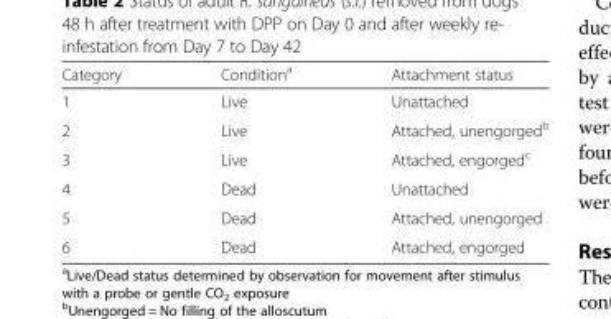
<table><thead><tr><td>Category</td><td>Condition<sup>a</sup></td><td>Attachment status</td></tr></thead><tbody><tr><td>1</td><td>Live</td><td>Unattached</td></tr><tr><td>2</td><td>Live</td><td>Attached, unengorged<sup>b</sup></td></tr><tr><td>3</td><td>Live</td><td>Attached, engorged<sup>c</sup></td></tr><tr><td>4</td><td>Dead</td><td>Unattached</td></tr><tr><td>5</td><td>Dead</td><td>Attached, unengorged</td></tr><tr><td>6</td><td>Dead</td><td>Attached, engorged</td></tr></tbody></table>